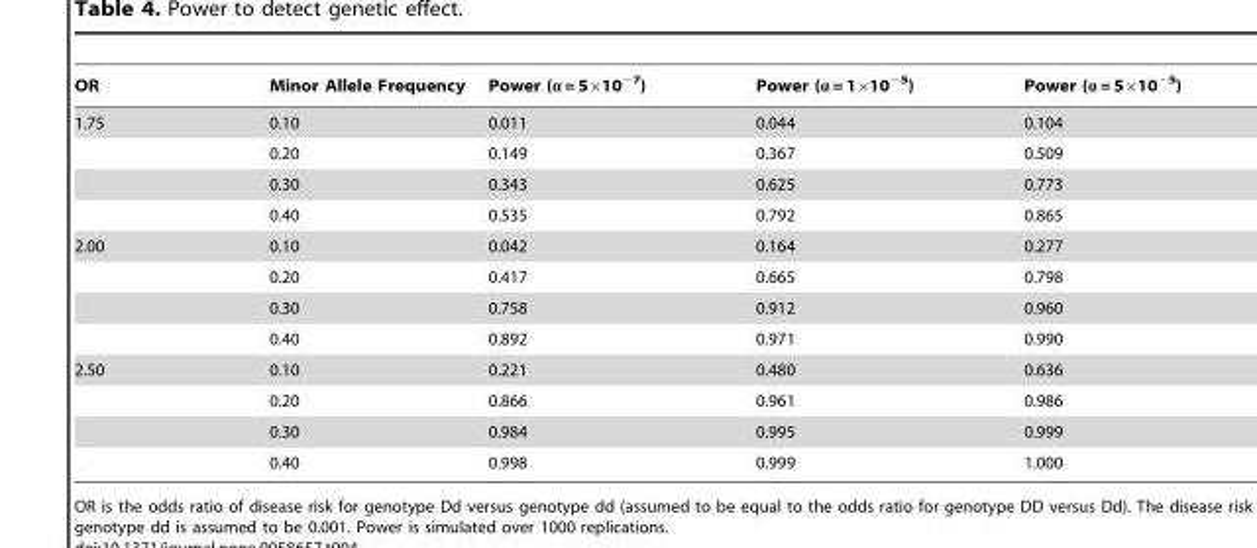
<table><thead><tr><td>OR</td><td>Minor Allele Frequency</td><td>Power (α = 5×10<sup>−7</sup>)</td><td>Power (α = 1×10<sup>−5</sup>)</td><td>Power (α = 5×10<sup>−5</sup>)</td></tr></thead><tbody><tr><td rowspan="4">1.75</td><td>0.10</td><td>0.011</td><td>0.044</td><td>0.104</td></tr><tr><td>0.20</td><td>0.149</td><td>0.367</td><td>0.509</td></tr><tr><td>0.30</td><td>0.343</td><td>0.625</td><td>0.773</td></tr><tr><td>0.40</td><td>0.535</td><td>0.792</td><td>0.865</td></tr><tr><td rowspan="4">2.00</td><td>0.10</td><td>0.042</td><td>0.164</td><td>0.277</td></tr><tr><td>0.20</td><td>0.417</td><td>0.665</td><td>0.798</td></tr><tr><td>0.30</td><td>0.758</td><td>0.912</td><td>0.960</td></tr><tr><td>0.40</td><td>0.892</td><td>0.971</td><td>0.990</td></tr><tr><td rowspan="4">2.50</td><td>0.10</td><td>0.221</td><td>0.480</td><td>0.636</td></tr><tr><td>0.20</td><td>0.866</td><td>0.961</td><td>0.986</td></tr><tr><td>0.30</td><td>0.984</td><td>0.995</td><td>0.999</td></tr><tr><td>0.40</td><td>0.998</td><td>0.999</td><td>1.000</td></tr></tbody></table>